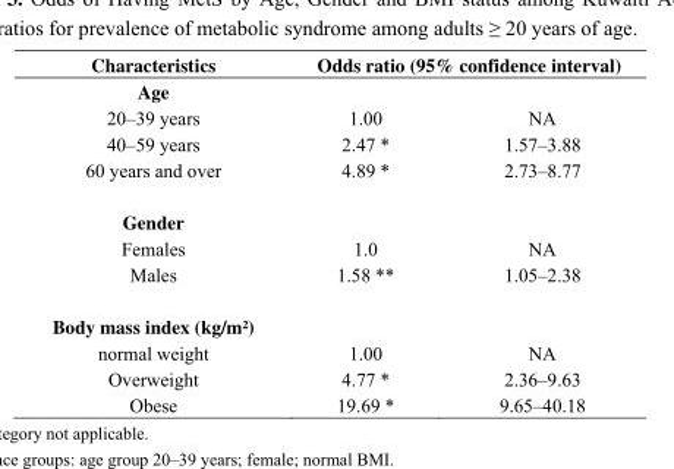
<table><thead><tr><td rowspan="2">Characteristics Age</td><td colspan="2">Odds ratio (95% confidence interval)</td></tr><tr><td></td><td></td></tr></thead><tbody><tr><td>20–39 years</td><td>1.00</td><td>NA</td></tr><tr><td>40–59 years</td><td>2.47 *</td><td>1.57–3.88</td></tr><tr><td>60 years and over</td><td>4.89 *</td><td>2.73–8.77</td></tr><tr><td colspan="3">Gender</td></tr><tr><td>Females</td><td>1.0</td><td>NA</td></tr><tr><td>Males</td><td>1.58 **</td><td>1.05–2.38</td></tr><tr><td colspan="3">Body mass index (kg/m²)</td></tr><tr><td>normal weight</td><td>1.00</td><td>NA</td></tr><tr><td>Overweight</td><td>4.77 *</td><td>2.36–9.63</td></tr><tr><td>Obese</td><td>19.69 *</td><td>9.65–40.18</td></tr></tbody></table>